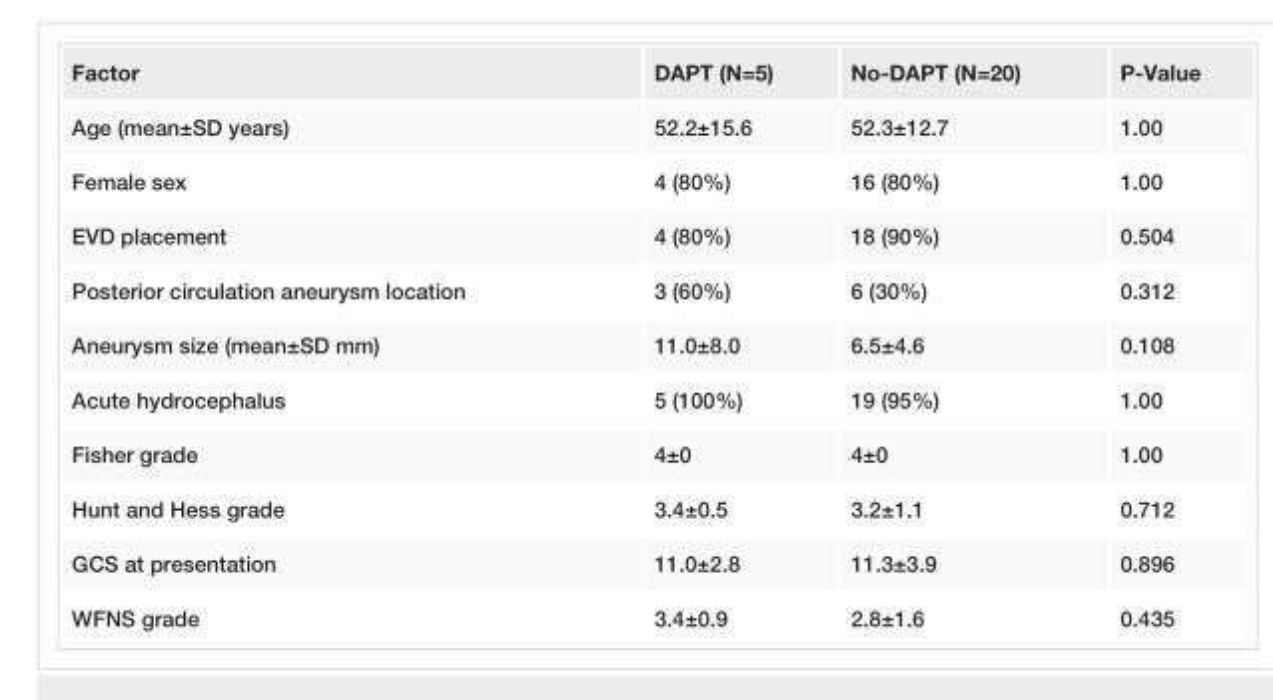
<table><tbody><tr><td>Factor</td><td>DAPT (N=5)</td><td>No-DAPT (N=20)</td><td>P-Value</td></tr><tr><td>Age (mean±SD years)</td><td>52.2±15.6</td><td>52.3±12.7</td><td>1.00</td></tr><tr><td>Female sex</td><td>4 (80%)</td><td>16 (80%)</td><td>1.00</td></tr><tr><td>EVD placement</td><td>4 (80%)</td><td>18 (90%)</td><td>0.504</td></tr><tr><td>Posterior circulation aneurysm location</td><td>3 (60%)</td><td>6 (30%)</td><td>0.312</td></tr><tr><td>Aneurysm size (mean±SD mm)</td><td>11.0±8.0</td><td>6.5±4.6</td><td>0.108</td></tr><tr><td>Acute hydrocephalus</td><td>5 (100%)</td><td>19 (95%)</td><td>1.00</td></tr><tr><td>Fisher grade</td><td>4±0</td><td>4±0</td><td>1.00</td></tr><tr><td>Hunt and Hess grade</td><td>3.4±0.5</td><td>3.2±1.1</td><td>0.712</td></tr><tr><td>GCS at presentation</td><td>11.0±2.8</td><td>11.3±3.9</td><td>0.896</td></tr><tr><td>WFNS grade</td><td>3.4±0.9</td><td>2.8±1.6</td><td>0.435</td></tr></tbody></table>